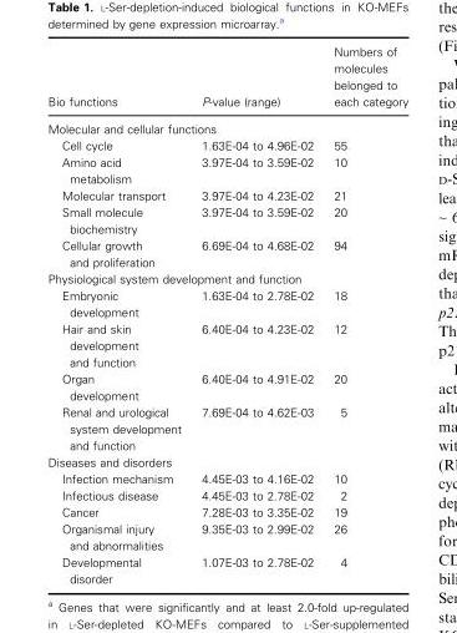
<table><thead><tr><td>Bio functions</td><td>P-value (range)</td><td>Numbers of molecules belonged to each category</td></tr></thead><tbody><tr><td colspan="3">Molecular and cellular functions</td></tr><tr><td>Cell cycle</td><td>1.63E-04 to 4.96E-02</td><td>55</td></tr><tr><td>Amino acid metabolism</td><td>3.97E-04 to 3.59E-02</td><td>10</td></tr><tr><td>Molecular transport</td><td>3.97E-04 to 4.23E-02</td><td>21</td></tr><tr><td>Small molecule biochemistry</td><td>3.97E-04 to 3.59E-02</td><td>20</td></tr><tr><td>Cellular growth and proliferation</td><td>6.69E-04 to 4.68E-02</td><td>94</td></tr><tr><td colspan="3">Physiological system development and function</td></tr><tr><td>Embryonic development</td><td>1.63E-04 to 2.78E-02</td><td>18</td></tr><tr><td>Hair and skin development and function</td><td>6.40E-04 to 4.23E-02</td><td>12</td></tr><tr><td>Organ development</td><td>6.40E-04 to 4.91E-02</td><td>20</td></tr><tr><td>Renal and urological system development and function</td><td>7.69E-04 to 4.62E-03</td><td>5</td></tr><tr><td colspan="3">Diseases and disorders</td></tr><tr><td>Infection mechanism</td><td>4.45E-03 to 4.16E-02</td><td>10</td></tr><tr><td>Infectious disease</td><td>4.45E-03 to 2.78E-02</td><td>2</td></tr><tr><td>Cancer</td><td>7.28E-03 to 3.35E-02</td><td>19</td></tr><tr><td>Organismal injury and abnormalities</td><td>9.35E-03 to 2.99E-02</td><td>26</td></tr><tr><td>Developmental disorder</td><td>1.07E-03 to 2.78E-02</td><td>4</td></tr></tbody></table>